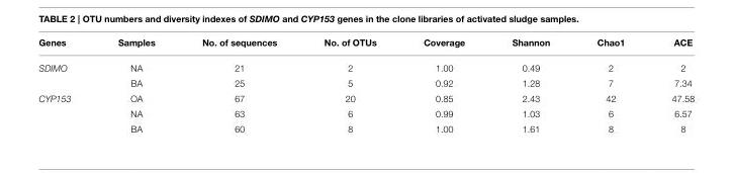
<table><thead><tr><td>Genes</td><td>Samples</td><td>No. of sequences</td><td>No. of OTUs</td><td>Coverage</td><td>Shannon</td><td>Chao1</td><td>ACE</td></tr></thead><tbody><tr><td rowspan="2">SDIMO</td><td>NA</td><td>21</td><td>2</td><td>1.00</td><td>0.49</td><td>2</td><td>2</td></tr><tr><td>BA</td><td>25</td><td>5</td><td>0.92</td><td>1.28</td><td>7</td><td>7.34</td></tr><tr><td rowspan="3">CYP153</td><td>OA</td><td>67</td><td>20</td><td>0.85</td><td>2.43</td><td>42</td><td>47.58</td></tr><tr><td>NA</td><td>63</td><td>6</td><td>0.99</td><td>1.03</td><td>6</td><td>6.57</td></tr><tr><td>BA</td><td>60</td><td>8</td><td>1.00</td><td>1.61</td><td>8</td><td>8</td></tr></tbody></table>